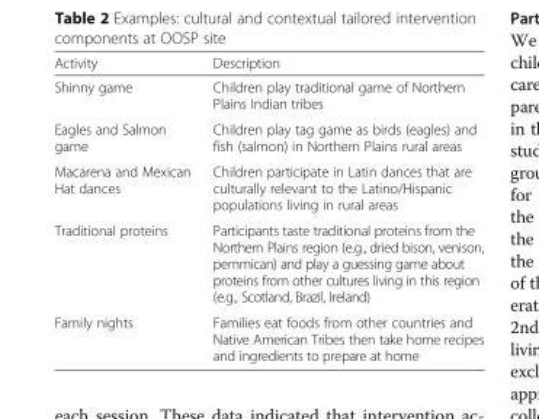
<table><thead><tr><td>Activity</td><td>Description</td></tr></thead><tbody><tr><td>Shinny game</td><td>Children play traditional game of Northern Plains Indian tribes</td></tr><tr><td>Eagles and Salmon game</td><td>Children play tag game as birds (eagles) and fish (salmon) in Northern Plains rural areas</td></tr><tr><td>Macarena and Mexican Hat dances</td><td>Children participate in Latin dances that are culturally relevant to the Latino/Hispanic populations living in rural areas</td></tr><tr><td>Traditional proteins</td><td>Participants taste traditional proteins from the Northern Plains region (e.g., dried bison, venison, pemmican) and play a guessing game about proteins from other cultures living in this region (e.g., Scotland, Brazil, Ireland)</td></tr><tr><td>Family nights</td><td>Families eat foods from other countries and Native American Tribes then take home recipes and ingredients to prepare at home</td></tr></tbody></table>